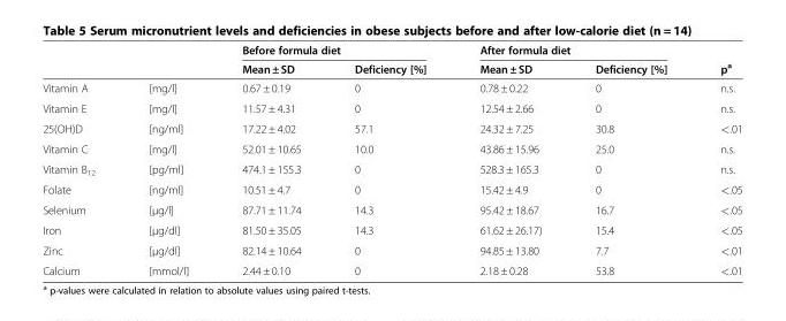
<table><thead><tr><td rowspan="2"></td><td rowspan="2"></td><td colspan="2">Before formula diet</td><td colspan="2">After formula diet</td><td rowspan="2">p<sup>a</sup></td></tr><tr><td>Mean ± SD</td><td>Deficiency [%]</td><td>Mean ± SD</td><td>Deficiency [%]</td></tr></thead><tbody><tr><td>Vitamin A</td><td>[mg/l]</td><td>0.67 ± 0.19</td><td>0</td><td>0.78 ± 0.22</td><td>0</td><td>n.s.</td></tr><tr><td>Vitamin E</td><td>[mg/l]</td><td>11.57 ± 4.31</td><td>0</td><td>12.54 ± 2.66</td><td>0</td><td>n.s.</td></tr><tr><td>25(OH)D</td><td>[ng/ml]</td><td>17.22 ± 4.02</td><td>57.1</td><td>24.32 ± 7.25</td><td>30.8</td><td>&lt;.01</td></tr><tr><td>Vitamin C</td><td>[mg/l]</td><td>52.01 ± 10.65</td><td>10.0</td><td>43.86 ± 15.96</td><td>25.0</td><td>n.s.</td></tr><tr><td>Vitamin B<sub>12</sub></td><td>[pg/ml]</td><td>474.1 ± 155.3</td><td>0</td><td>528.3 ± 165.3</td><td>0</td><td>n.s.</td></tr><tr><td>Folate</td><td>[ng/ml]</td><td>10.51 ± 4.7</td><td>0</td><td>15.42 ± 4.9</td><td>0</td><td>&lt;.05</td></tr><tr><td>Selenium</td><td>[μg/l]</td><td>87.71 ± 11.74</td><td>14.3</td><td>95.42 ± 18.67</td><td>16.7</td><td>&lt;.05</td></tr><tr><td>Iron</td><td>[μg/dl]</td><td>81.50 ± 35.05</td><td>14.3</td><td>61.62 ± 26.17)</td><td>15.4</td><td>&lt;.05</td></tr><tr><td>Zinc</td><td>[μg/dl]</td><td>82.14 ± 10.64</td><td>0</td><td>94.85 ± 13.80</td><td>7.7</td><td>&lt;.01</td></tr><tr><td>Calcium</td><td>[mmol/l]</td><td>2.44 ± 0.10</td><td>0</td><td>2.18 ± 0.28</td><td>53.8</td><td>&lt;.01</td></tr></tbody></table>